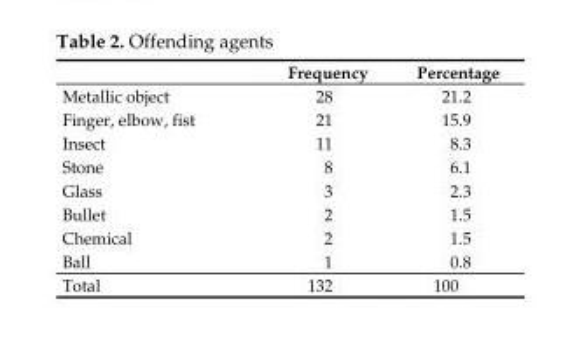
<table><thead><tr><td></td><td>Frequency</td><td>Percentage</td></tr></thead><tbody><tr><td>Metallic object</td><td>28</td><td>21.2</td></tr><tr><td>Finger, elbow, fist</td><td>21</td><td>15.9</td></tr><tr><td>Insect</td><td>11</td><td>8.3</td></tr><tr><td>Stone</td><td>8</td><td>6.1</td></tr><tr><td>Glass</td><td>3</td><td>2.3</td></tr><tr><td>Bullet</td><td>2</td><td>1.5</td></tr><tr><td>Chemical</td><td>2</td><td>1.5</td></tr><tr><td>Ball</td><td>1</td><td>0.8</td></tr><tr><td>Total</td><td>132</td><td>100</td></tr></tbody></table>